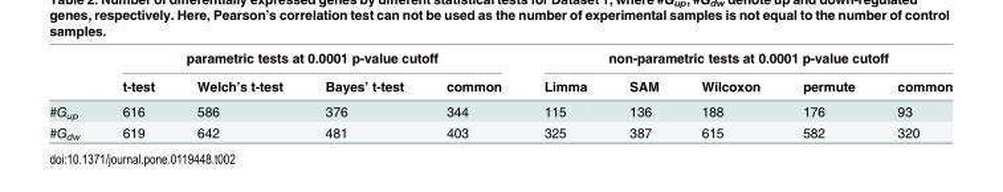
<table><thead><tr><td rowspan="2"></td><td colspan="4">parametric tests at 0.0001 p-value cutoff</td><td colspan="5">non-parametric tests at 0.0001 p-value cutoff</td></tr><tr><td>t-test</td><td>Welch’s t-test</td><td>Bayes’ t-test</td><td>common</td><td>Limma</td><td>SAM</td><td>Wilcoxon</td><td>permute</td><td>common</td></tr></thead><tbody><tr><td>#G<sub>up</sub></td><td>616</td><td>586</td><td>376</td><td>344</td><td>115</td><td>136</td><td>188</td><td>176</td><td>93</td></tr><tr><td>#G<sub>dw</sub></td><td>619</td><td>642</td><td>481</td><td>403</td><td>325</td><td>387</td><td>615</td><td>582</td><td>320</td></tr></tbody></table>